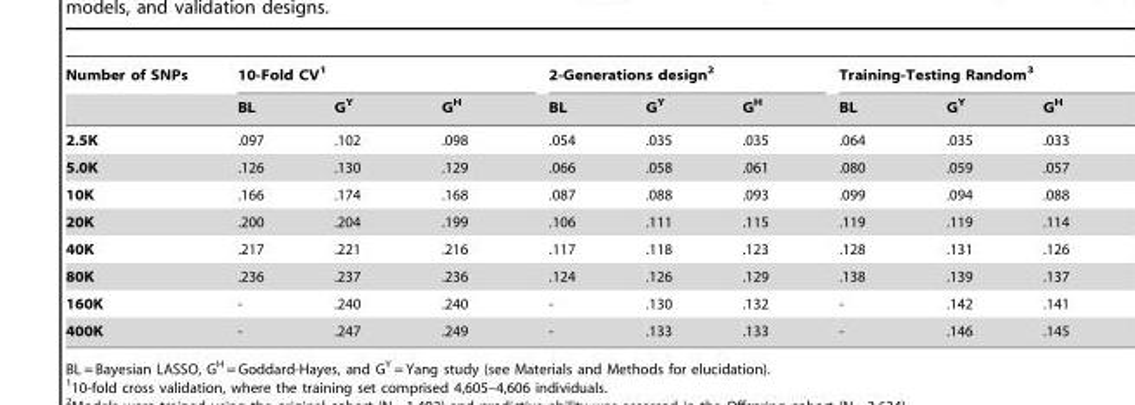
<table><thead><tr><td rowspan="2">Number of SNPs</td><td colspan="3">10-Fold CV<sup>1</sup></td><td colspan="3">2-Generations design<sup>2</sup></td><td colspan="3">Training-Testing Random<sup>3</sup></td></tr><tr><td>BL</td><td>G<sup>Y</sup></td><td>G<sup>H</sup></td><td>BL</td><td>G<sup>Y</sup></td><td>G<sup>H</sup></td><td>BL</td><td>G<sup>Y</sup></td><td>G<sup>H</sup></td></tr></thead><tbody><tr><td>2.5K</td><td>.097</td><td>.102</td><td>.098</td><td>.054</td><td>.035</td><td>.035</td><td>.064</td><td>.035</td><td>.033</td></tr><tr><td>5.0K</td><td>.126</td><td>.130</td><td>.129</td><td>.066</td><td>.058</td><td>.061</td><td>.080</td><td>.059</td><td>.057</td></tr><tr><td>10K</td><td>.166</td><td>.174</td><td>.168</td><td>.087</td><td>.088</td><td>.093</td><td>.099</td><td>.094</td><td>.088</td></tr><tr><td>20K</td><td>.200</td><td>.204</td><td>.199</td><td>.106</td><td>.111</td><td>.115</td><td>.119</td><td>.119</td><td>.114</td></tr><tr><td>40K</td><td>.217</td><td>.221</td><td>.216</td><td>.117</td><td>.118</td><td>.123</td><td>.128</td><td>.131</td><td>.126</td></tr><tr><td>80K</td><td>.236</td><td>.237</td><td>.236</td><td>.124</td><td>.126</td><td>.129</td><td>.138</td><td>.139</td><td>.137</td></tr><tr><td>160K</td><td>-</td><td>.240</td><td>.240</td><td>-</td><td>.130</td><td>.132</td><td>-</td><td>.142</td><td>.141</td></tr><tr><td>400K</td><td>-</td><td>.247</td><td>.249</td><td>-</td><td>.133</td><td>.133</td><td>-</td><td>.146</td><td>.145</td></tr></tbody></table>